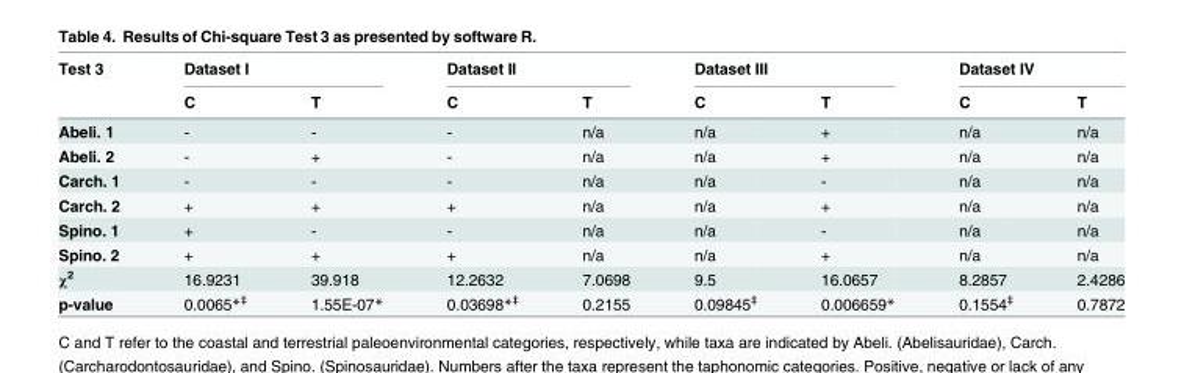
<table><thead><tr><td rowspan="2">Test 3</td><td colspan="2">Dataset I</td><td colspan="2">Dataset II</td><td colspan="2">Dataset III</td><td colspan="2">Dataset IV</td></tr><tr><td>C</td><td>T</td><td>C</td><td>T</td><td>C</td><td>T</td><td>C</td><td>T</td></tr></thead><tbody><tr><td>Abeli. 1</td><td>-</td><td>-</td><td>-</td><td>n/a</td><td>n/a</td><td>+</td><td>n/a</td><td>n/a</td></tr><tr><td>Abeli. 2</td><td>-</td><td>+</td><td>-</td><td>n/a</td><td>n/a</td><td>+</td><td>n/a</td><td>n/a</td></tr><tr><td>Carch. 1</td><td>-</td><td>-</td><td>-</td><td>n/a</td><td>n/a</td><td>-</td><td>n/a</td><td>n/a</td></tr><tr><td>Carch. 2</td><td>+</td><td>+</td><td>+</td><td>n/a</td><td>n/a</td><td>+</td><td>n/a</td><td>n/a</td></tr><tr><td>Spino. 1</td><td>+</td><td>-</td><td>-</td><td>n/a</td><td>n/a</td><td>-</td><td>n/a</td><td>n/a</td></tr><tr><td>Spino. 2</td><td>+</td><td>+</td><td>+</td><td>n/a</td><td>n/a</td><td>+</td><td>n/a</td><td>n/a</td></tr><tr><td>χ<sup>2</sup></td><td>16.9231</td><td>39.918</td><td>12.2632</td><td>7.0698</td><td>9.5</td><td>16.0657</td><td>8.2857</td><td>2.4286</td></tr><tr><td>p-value</td><td>0.0065*<sup>‡</sup></td><td>1.55E-07*</td><td>0.03698*<sup>‡</sup></td><td>0.2155</td><td>0.09845<sup>‡</sup></td><td>0.006659*</td><td>0.1554<sup>‡</sup></td><td>0.7872</td></tr></tbody></table>